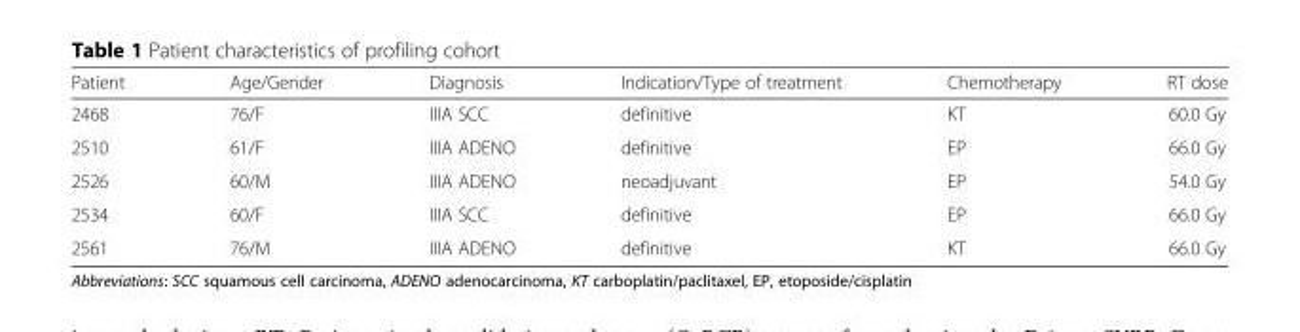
<table><thead><tr><td>Patient</td><td>Age/Gender</td><td>Diagnosis</td><td>Indication/Type of treatment</td><td>Chemotherapy</td><td>RT dose</td></tr></thead><tbody><tr><td>2468</td><td>76/F</td><td>IIIA SCC</td><td>definitive</td><td>KT</td><td>60.0 Gy</td></tr><tr><td>2510</td><td>61/F</td><td>IIIA ADENO</td><td>definitive</td><td>EP</td><td>66.0 Gy</td></tr><tr><td>2526</td><td>60/M</td><td>IIIA ADENO</td><td>neoadjuvant</td><td>EP</td><td>54.0 Gy</td></tr><tr><td>2534</td><td>60/F</td><td>IIIA SCC</td><td>definitive</td><td>EP</td><td>66.0 Gy</td></tr><tr><td>2561</td><td>76/M</td><td>IIIA ADENO</td><td>definitive</td><td>KT</td><td>66.0 Gy</td></tr></tbody></table>